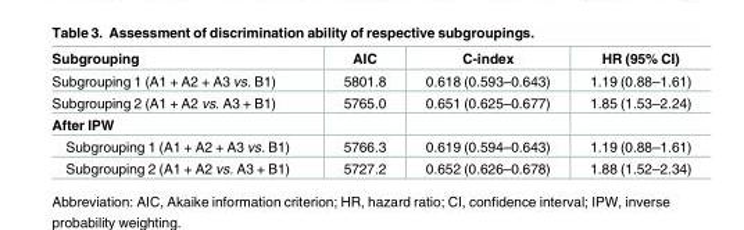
<table><thead><tr><td>Subgrouping</td><td>AIC</td><td>C-index</td><td>HR (95% CI)</td></tr></thead><tbody><tr><td>Subgrouping 1 (A1 + A2 + A3 vs. B1)</td><td>5801.8</td><td>0.618 (0.593–0.643)</td><td>1.19 (0.88–1.61)</td></tr><tr><td>Subgrouping 2 (A1 + A2 vs. A3 + B1)</td><td>5765.0</td><td>0.651 (0.625–0.677)</td><td>1.85 (1.53–2.24)</td></tr><tr><td colspan="4">After IPW</td></tr><tr><td>Subgrouping 1 (A1 + A2 + A3 vs. B1)</td><td>5766.3</td><td>0.619 (0.594–0.643)</td><td>1.19 (0.88–1.61)</td></tr><tr><td>Subgrouping 2 (A1 + A2 vs. A3 + B1)</td><td>5727.2</td><td>0.652 (0.626–0.678)</td><td>1.88 (1.52–2.34)</td></tr></tbody></table>